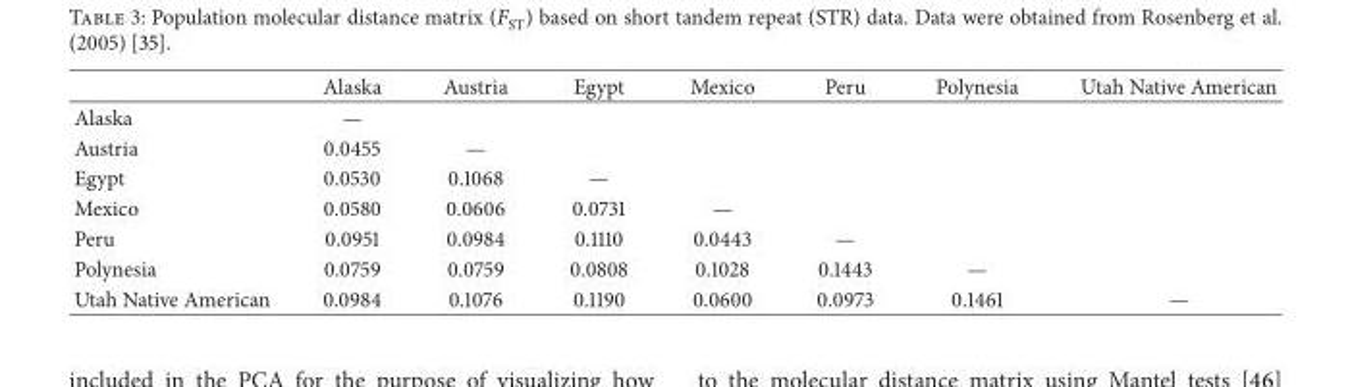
<table><thead><tr><td></td><td>Alaska</td><td>Austria</td><td>Egypt</td><td>Mexico</td><td>Peru</td><td>Polynesia</td><td>Utah Native American</td></tr></thead><tbody><tr><td>Alaska</td><td>—</td><td></td><td></td><td></td><td></td><td></td><td></td></tr><tr><td>Austria</td><td>0.0455</td><td>—</td><td></td><td></td><td></td><td></td><td></td></tr><tr><td>Egypt</td><td>0.0530</td><td>0.1068</td><td>—</td><td></td><td></td><td></td><td></td></tr><tr><td>Mexico</td><td>0.0580</td><td>0.0606</td><td>0.0731</td><td>—</td><td></td><td></td><td></td></tr><tr><td>Peru</td><td>0.0951</td><td>0.0984</td><td>0.1110</td><td>0.0443</td><td>—</td><td></td><td></td></tr><tr><td>Polynesia</td><td>0.0759</td><td>0.0759</td><td>0.0808</td><td>0.1028</td><td>0.1443</td><td>—</td><td></td></tr><tr><td>Utah Native American</td><td>0.0984</td><td>0.1076</td><td>0.1190</td><td>0.0600</td><td>0.0973</td><td>0.1461</td><td>—</td></tr></tbody></table>